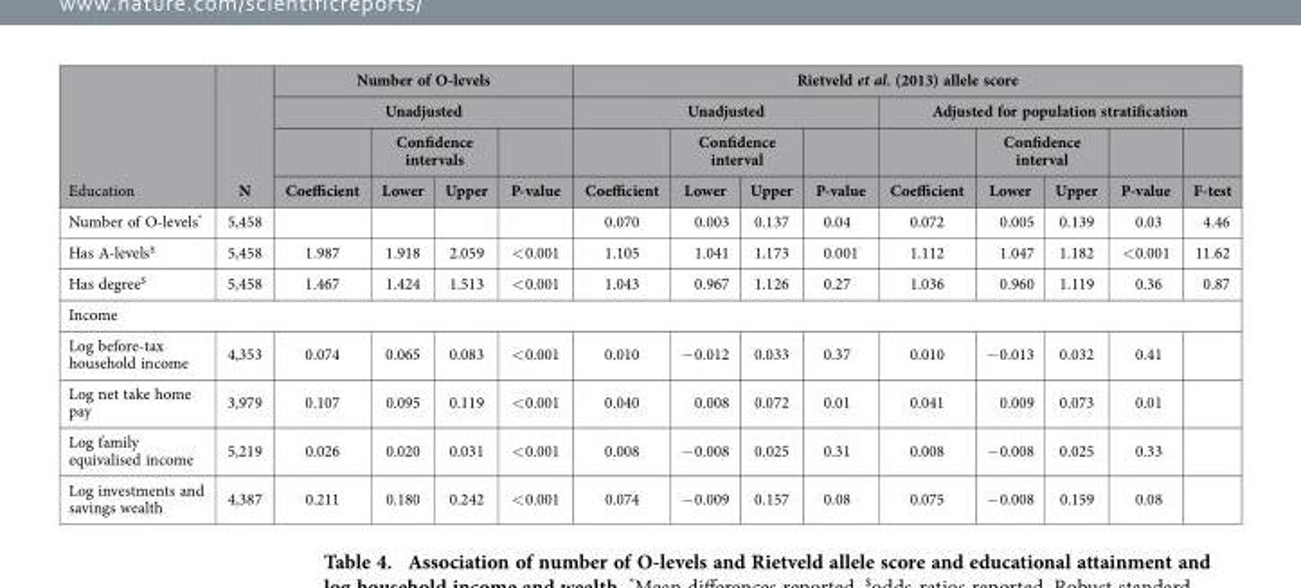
<table><thead><tr><td rowspan="4">Education</td><td rowspan="4">N</td><td rowspan="2" colspan="4">Number of O-levels Unadjusted</td><td colspan="9">Rietveld et al. (2013) allele score</td></tr><tr><td colspan="4">Unadjusted</td><td colspan="5">Adjusted for population stratification</td></tr><tr><td rowspan="2">Coefficient</td><td colspan="2">Confidence intervals</td><td rowspan="2">P-value</td><td rowspan="2">Coefficient</td><td colspan="2">Confidence interval</td><td rowspan="2">P-value</td><td rowspan="2">Coefficient</td><td colspan="2">Confidence interval</td><td rowspan="2">P-value</td><td rowspan="2">F-test</td></tr><tr><td>Lower</td><td>Upper</td><td>Lower</td><td>Upper</td><td>Lower</td><td>Upper</td></tr></thead><tbody><tr><td>Number of O-levels*</td><td>5,458</td><td></td><td></td><td></td><td></td><td>0.070</td><td>0.003</td><td>0.137</td><td>0.04</td><td>0.072</td><td>0.005</td><td>0.139</td><td>0.03</td><td>4.46</td></tr><tr><td>Has A-levels$</td><td>5,458</td><td>1.987</td><td>1.918</td><td>2.059</td><td>&lt; 0.001</td><td>1.105</td><td>1.041</td><td>1.173</td><td>0.001</td><td>1.112</td><td>1.047</td><td>1.182</td><td>&lt; 0.001</td><td>11.62</td></tr><tr><td>Has degree$</td><td>5,458</td><td>1.467</td><td>1.424</td><td>1.513</td><td>&lt; 0.001</td><td>1.043</td><td>0.967</td><td>1.126</td><td>0.27</td><td>1.036</td><td>0.960</td><td>1.119</td><td>0.36</td><td>0.87</td></tr><tr><td colspan="15">Income</td></tr><tr><td>Log before-tax household income</td><td>4,353</td><td>0.074</td><td>0.065</td><td>0.083</td><td>&lt; 0.001</td><td>0.010</td><td>− 0.012</td><td>0.033</td><td>0.37</td><td>0.010</td><td>− 0.013</td><td>0.032</td><td>0.41</td><td></td></tr><tr><td>Log net take home pay</td><td>3,979</td><td>0.107</td><td>0.095</td><td>0.119</td><td>&lt; 0.001</td><td>0.040</td><td>0.008</td><td>0.072</td><td>0.01</td><td>0.041</td><td>0.009</td><td>0.073</td><td>0.01</td><td></td></tr><tr><td>Log family equivalised income</td><td>5,219</td><td>0.026</td><td>0.020</td><td>0.031</td><td>&lt; 0.001</td><td>0.008</td><td>− 0.008</td><td>0.025</td><td>0.31</td><td>0.008</td><td>− 0.008</td><td>0.025</td><td>0.33</td><td></td></tr><tr><td>Log investments and savings wealth</td><td>4,387</td><td>0.211</td><td>0.180</td><td>0.242</td><td>&lt; 0.001</td><td>0.074</td><td>− 0.009</td><td>0.157</td><td>0.08</td><td>0.075</td><td>− 0.008</td><td>0.159</td><td>0.08</td><td></td></tr></tbody></table>